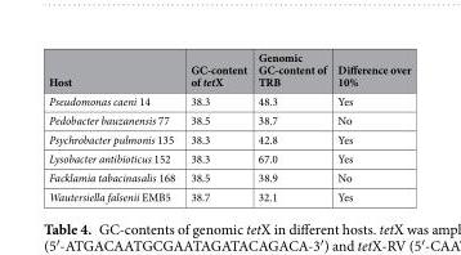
<table><thead><tr><td>Host</td><td>GC-content of tetX</td><td>Genomic GC-content of TRB</td><td>Difference over 10%</td></tr></thead><tbody><tr><td>Pseudomonas caeni 14</td><td>38.3</td><td>48.3</td><td>Yes</td></tr><tr><td>Pedobacter bauzanensis 77</td><td>38.5</td><td>38.7</td><td>No</td></tr><tr><td>Psychrobacter pulmonis 135</td><td>38.3</td><td>42.8</td><td>Yes</td></tr><tr><td>Lysobacter antibioticus 152</td><td>38.3</td><td>67.0</td><td>Yes</td></tr><tr><td>Facklamia tabacinasalis 168</td><td>38.5</td><td>38.9</td><td>No</td></tr><tr><td>Wautersiella falsenii EMB5</td><td>38.7</td><td>32.1</td><td>Yes</td></tr></tbody></table>